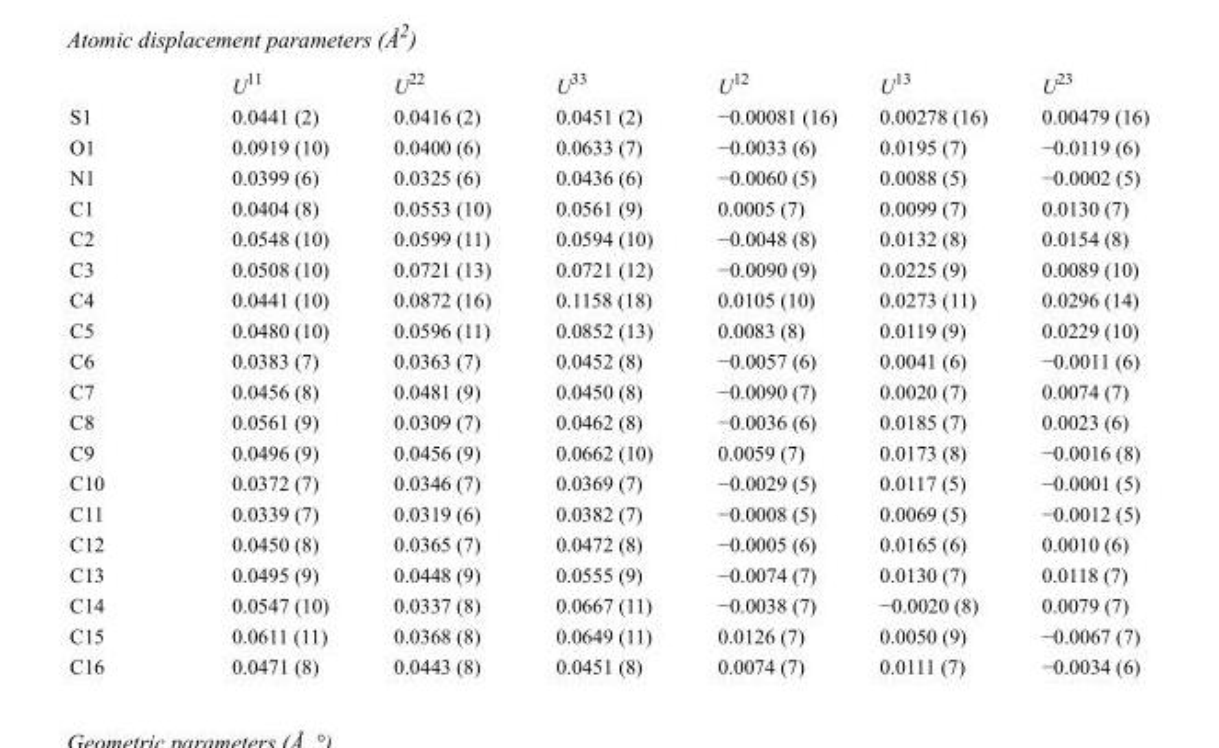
<table><thead><tr><td></td><td>U<sup>11</sup></td><td>U<sup>22</sup></td><td>U<sup>33</sup></td><td>U<sup>12</sup></td><td>U<sup>13</sup></td><td>U<sup>23</sup></td></tr></thead><tbody><tr><td>S1</td><td>0.0441 (2)</td><td>0.0416 (2)</td><td>0.0451 (2)</td><td>−0.00081 (16)</td><td>0.00278 (16)</td><td>0.00479 (16)</td></tr><tr><td>O1</td><td>0.0919 (10)</td><td>0.0400 (6)</td><td>0.0633 (7)</td><td>−0.0033 (6)</td><td>0.0195 (7)</td><td>−0.0119 (6)</td></tr><tr><td>N1</td><td>0.0399 (6)</td><td>0.0325 (6)</td><td>0.0436 (6)</td><td>−0.0060 (5)</td><td>0.0088 (5)</td><td>−0.0002 (5)</td></tr><tr><td>C1</td><td>0.0404 (8)</td><td>0.0553 (10)</td><td>0.0561 (9)</td><td>0.0005 (7)</td><td>0.0099 (7)</td><td>0.0130 (7)</td></tr><tr><td>C2</td><td>0.0548 (10)</td><td>0.0599 (11)</td><td>0.0594 (10)</td><td>−0.0048 (8)</td><td>0.0132 (8)</td><td>0.0154 (8)</td></tr><tr><td>C3</td><td>0.0508 (10)</td><td>0.0721 (13)</td><td>0.0721 (12)</td><td>−0.0090 (9)</td><td>0.0225 (9)</td><td>0.0089 (10)</td></tr><tr><td>C4</td><td>0.0441 (10)</td><td>0.0872 (16)</td><td>0.1158 (18)</td><td>0.0105 (10)</td><td>0.0273 (11)</td><td>0.0296 (14)</td></tr><tr><td>C5</td><td>0.0480 (10)</td><td>0.0596 (11)</td><td>0.0852 (13)</td><td>0.0083 (8)</td><td>0.0119 (9)</td><td>0.0229 (10)</td></tr><tr><td>C6</td><td>0.0383 (7)</td><td>0.0363 (7)</td><td>0.0452 (8)</td><td>−0.0057 (6)</td><td>0.0041 (6)</td><td>−0.0011 (6)</td></tr><tr><td>C7</td><td>0.0456 (8)</td><td>0.0481 (9)</td><td>0.0450 (8)</td><td>−0.0090 (7)</td><td>0.0020 (7)</td><td>0.0074 (7)</td></tr><tr><td>C8</td><td>0.0561 (9)</td><td>0.0309 (7)</td><td>0.0462 (8)</td><td>−0.0036 (6)</td><td>0.0185 (7)</td><td>0.0023 (6)</td></tr><tr><td>C9</td><td>0.0496 (9)</td><td>0.0456 (9)</td><td>0.0662 (10)</td><td>0.0059 (7)</td><td>0.0173 (8)</td><td>−0.0016 (8)</td></tr><tr><td>C10</td><td>0.0372 (7)</td><td>0.0346 (7)</td><td>0.0369 (7)</td><td>−0.0029 (5)</td><td>0.0117 (5)</td><td>−0.0001 (5)</td></tr><tr><td>C11</td><td>0.0339 (7)</td><td>0.0319 (6)</td><td>0.0382 (7)</td><td>−0.0008 (5)</td><td>0.0069 (5)</td><td>−0.0012 (5)</td></tr><tr><td>C12</td><td>0.0450 (8)</td><td>0.0365 (7)</td><td>0.0472 (8)</td><td>−0.0005 (6)</td><td>0.0165 (6)</td><td>0.0010 (6)</td></tr><tr><td>C13</td><td>0.0495 (9)</td><td>0.0448 (9)</td><td>0.0555 (9)</td><td>−0.0074 (7)</td><td>0.0130 (7)</td><td>0.0118 (7)</td></tr><tr><td>C14</td><td>0.0547 (10)</td><td>0.0337 (8)</td><td>0.0667 (11)</td><td>−0.0038 (7)</td><td>−0.0020 (8)</td><td>0.0079 (7)</td></tr><tr><td>C15</td><td>0.0611 (11)</td><td>0.0368 (8)</td><td>0.0649 (11)</td><td>0.0126 (7)</td><td>0.0050 (9)</td><td>−0.0067 (7)</td></tr><tr><td>C16</td><td>0.0471 (8)</td><td>0.0443 (8)</td><td>0.0451 (8)</td><td>0.0074 (7)</td><td>0.0111 (7)</td><td>−0.0034 (6)</td></tr></tbody></table>